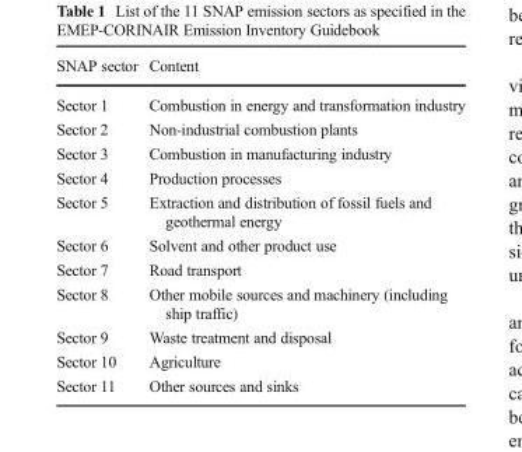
<table><thead><tr><td>SNAP sector</td><td>Content</td></tr></thead><tbody><tr><td>Sector 1</td><td>Combustion in energy and transformation industry</td></tr><tr><td>Sector 2</td><td>Non-industrial combustion plants</td></tr><tr><td>Sector 3</td><td>Combustion in manufacturing industry</td></tr><tr><td>Sector 4</td><td>Production processes</td></tr><tr><td>Sector 5</td><td>Extraction and distribution of fossil fuels and geothermal energy</td></tr><tr><td>Sector 6</td><td>Solvent and other product use</td></tr><tr><td>Sector 7</td><td>Road transport</td></tr><tr><td>Sector 8</td><td>Other mobile sources and machinery (including ship traffic)</td></tr><tr><td>Sector 9</td><td>Waste treatment and disposal</td></tr><tr><td>Sector 10</td><td>Agriculture</td></tr><tr><td>Sector 11</td><td>Other sources and sinks</td></tr></tbody></table>